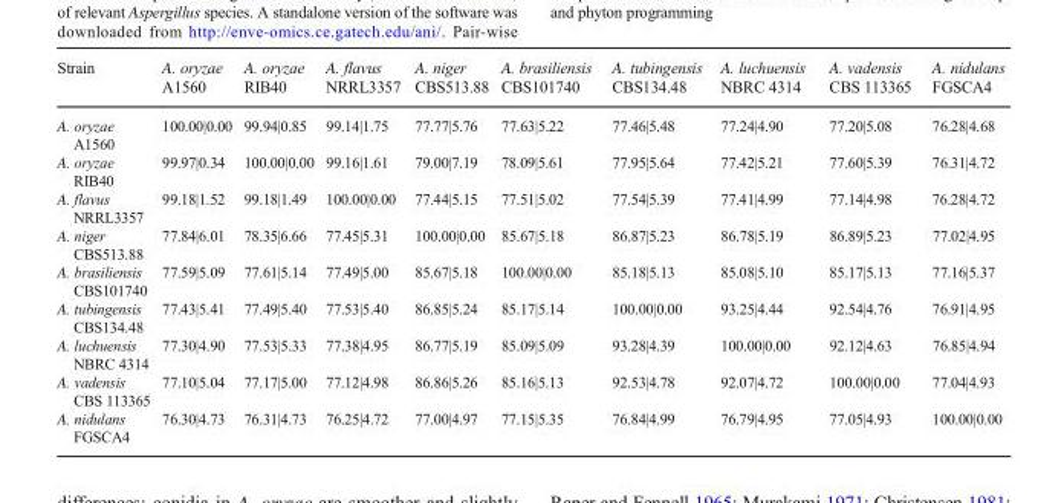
<table><thead><tr><td>Strain</td><td>A. oryzae A1560</td><td>A. oryzae RIB40</td><td>A. flavus NRRL3357</td><td>A. niger CBS513.88</td><td>A. brasiliensis CBS101740</td><td>A. tubingensis CBS134.48</td><td>A. luchuensis NBRC 4314</td><td>A. vadensis CBS 113365</td><td>A. nidulans FGSCA4</td></tr></thead><tbody><tr><td>A. oryzae A1560</td><td>100.00|0.00</td><td>99.94|0.85</td><td>99.14|1.75</td><td>77.77|5.76</td><td>77.63|5.22</td><td>77.46|5.48</td><td>77.24|4.90</td><td>77.20|5.08</td><td>76.28|4.68</td></tr><tr><td>A. oryzae RIB40</td><td>99.97|0.34</td><td>100.00|0.00</td><td>99.16|1.61</td><td>79.00|7.19</td><td>78.09|5.61</td><td>77.95|5.64</td><td>77.42|5.21</td><td>77.60|5.39</td><td>76.31|4.72</td></tr><tr><td>A. flavus NRRL3357</td><td>99.18|1.52</td><td>99.18|1.49</td><td>100.00|0.00</td><td>77.44|5.15</td><td>77.51|5.02</td><td>77.54|5.39</td><td>77.41|4.99</td><td>77.14|4.98</td><td>76.28|4.72</td></tr><tr><td>A. niger CBS513.88</td><td>77.84|6.01</td><td>78.35|6.66</td><td>77.45|5.31</td><td>100.00|0.00</td><td>85.67|5.18</td><td>86.87|5.23</td><td>86.78|5.19</td><td>86.89|5.23</td><td>77.02|4.95</td></tr><tr><td>A. brasiliensis CBS101740</td><td>77.59|5.09</td><td>77.61|5.14</td><td>77.49|5.00</td><td>85.67|5.18</td><td>100.00|0.00</td><td>85.18|5.13</td><td>85.08|5.10</td><td>85.17|5.13</td><td>77.16|5.37</td></tr><tr><td>A. tubingensis CBS134.48</td><td>77.43|5.41</td><td>77.49|5.40</td><td>77.53|5.40</td><td>86.85|5.24</td><td>85.17|5.14</td><td>100.00|0.00</td><td>93.25|4.44</td><td>92.54|4.76</td><td>76.91|4.95</td></tr><tr><td>A. luchuensis NBRC 4314</td><td>77.30|4.90</td><td>77.53|5.33</td><td>77.38|4.95</td><td>86.77|5.19</td><td>85.09|5.09</td><td>93.28|4.39</td><td>100.00|0.00</td><td>92.12|4.63</td><td>76.85|4.94</td></tr><tr><td>A. vadensis CBS 113365</td><td>77.10|5.04</td><td>77.17|5.00</td><td>77.12|4.98</td><td>86.86|5.26</td><td>85.16|5.13</td><td>92.53|4.78</td><td>92.07|4.72</td><td>100.00|0.00</td><td>77.04|4.93</td></tr><tr><td>A. nidulans FGSCA4</td><td>76.30|4.73</td><td>76.31|4.73</td><td>76.25|4.72</td><td>77.00|4.97</td><td>77.15|5.35</td><td>76.84|4.99</td><td>76.79|4.95</td><td>77.05|4.93</td><td>100.00|0.00</td></tr></tbody></table>